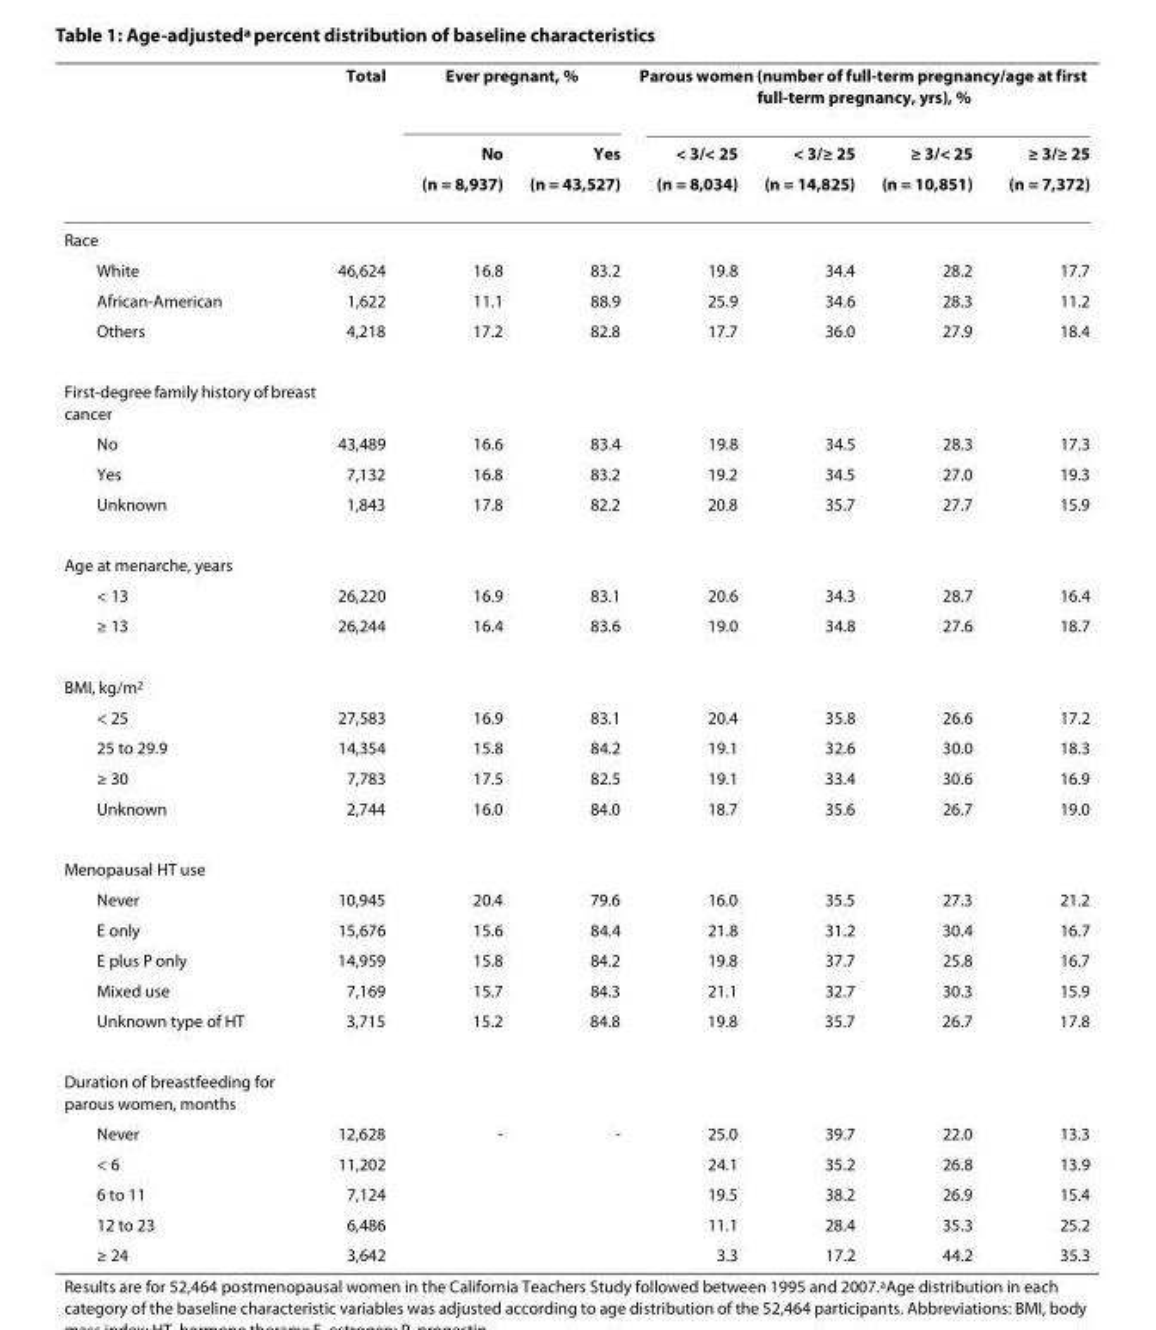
<table><thead><tr><td rowspan="3"></td><td rowspan="3">Total</td><td colspan="2">Ever pregnant, %</td><td colspan="4">Parous women (number of full-term pregnancy/age at first full-term pregnancy, yrs), %</td></tr><tr><td rowspan="2">No (n = 8,937)</td><td rowspan="2">Yes (n = 43,527)</td><td rowspan="2">&lt; 3/&lt; 25 (n = 8,034)</td><td rowspan="2">&lt; 3/≥ 25 (n = 14,825)</td><td rowspan="2">≥ 3/&lt; 25 (n = 10,851)</td><td rowspan="2">≥ 3/≥ 25 (n = 7,372)</td></tr><tr></tr></thead><tbody><tr><td colspan="8">Race</td></tr><tr><td>White</td><td>46,624</td><td>16.8</td><td>83.2</td><td>19.8</td><td>34.4</td><td>28.2</td><td>17.7</td></tr><tr><td>African-American</td><td>1,622</td><td>11.1</td><td>88.9</td><td>25.9</td><td>34.6</td><td>28.3</td><td>11.2</td></tr><tr><td>Others</td><td>4,218</td><td>17.2</td><td>82.8</td><td>17.7</td><td>36.0</td><td>27.9</td><td>18.4</td></tr><tr><td colspan="8">First-degree family history of breast cancer</td></tr><tr><td>No</td><td>43,489</td><td>16.6</td><td>83.4</td><td>19.8</td><td>34.5</td><td>28.3</td><td>17.3</td></tr><tr><td>Yes</td><td>7,132</td><td>16.8</td><td>83.2</td><td>19.2</td><td>34.5</td><td>27.0</td><td>19.3</td></tr><tr><td>Unknown</td><td>1,843</td><td>17.8</td><td>82.2</td><td>20.8</td><td>35.7</td><td>27.7</td><td>15.9</td></tr><tr><td colspan="8">Age at menarche, years</td></tr><tr><td>&lt; 13</td><td>26,220</td><td>16.9</td><td>83.1</td><td>20.6</td><td>34.3</td><td>28.7</td><td>16.4</td></tr><tr><td>≥ 13</td><td>26,244</td><td>16.4</td><td>83.6</td><td>19.0</td><td>34.8</td><td>27.6</td><td>18.7</td></tr><tr><td colspan="8">BMI, kg/m<sup>2</sup></td></tr><tr><td>&lt; 25</td><td>27,583</td><td>16.9</td><td>83.1</td><td>20.4</td><td>35.8</td><td>26.6</td><td>17.2</td></tr><tr><td>25 to 29.9</td><td>14,354</td><td>15.8</td><td>84.2</td><td>19.1</td><td>32.6</td><td>30.0</td><td>18.3</td></tr><tr><td>≥ 30</td><td>7,783</td><td>17.5</td><td>82.5</td><td>19.1</td><td>33.4</td><td>30.6</td><td>16.9</td></tr><tr><td>Unknown</td><td>2,744</td><td>16.0</td><td>84.0</td><td>18.7</td><td>35.6</td><td>26.7</td><td>19.0</td></tr><tr><td colspan="8">Menopausal HT use</td></tr><tr><td>Never</td><td>10,945</td><td>20.4</td><td>79.6</td><td>16.0</td><td>35.5</td><td>27.3</td><td>21.2</td></tr><tr><td>E only</td><td>15,676</td><td>15.6</td><td>84.4</td><td>21.8</td><td>31.2</td><td>30.4</td><td>16.7</td></tr><tr><td>E plus P only</td><td>14,959</td><td>15.8</td><td>84.2</td><td>19.8</td><td>37.7</td><td>25.8</td><td>16.7</td></tr><tr><td>Mixed use</td><td>7,169</td><td>15.7</td><td>84.3</td><td>21.1</td><td>32.7</td><td>30.3</td><td>15.9</td></tr><tr><td>Unknown type of HT</td><td>3,715</td><td>15.2</td><td>84.8</td><td>19.8</td><td>35.7</td><td>26.7</td><td>17.8</td></tr><tr><td colspan="8">Duration of breastfeeding for parous women, months</td></tr><tr><td>Never</td><td>12,628</td><td>-</td><td>-</td><td>25.0</td><td>39.7</td><td>22.0</td><td>13.3</td></tr><tr><td>&lt; 6</td><td>11,202</td><td></td><td></td><td>24.1</td><td>35.2</td><td>26.8</td><td>13.9</td></tr><tr><td>6 to 11</td><td>7,124</td><td></td><td></td><td>19.5</td><td>38.2</td><td>26.9</td><td>15.4</td></tr><tr><td>12 to 23</td><td>6,486</td><td></td><td></td><td>11.1</td><td>28.4</td><td>35.3</td><td>25.2</td></tr><tr><td>≥ 24</td><td>3,642</td><td></td><td></td><td>3.3</td><td>17.2</td><td>44.2</td><td>35.3</td></tr></tbody></table>